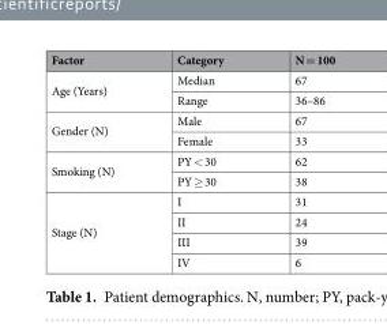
<table><thead><tr><td>Factor</td><td>Category</td><td>N = 100</td></tr></thead><tbody><tr><td rowspan="2">Age (Years)</td><td>Median</td><td>67</td></tr><tr><td>Range</td><td>36–86</td></tr><tr><td rowspan="2">Gender (N)</td><td>Male</td><td>67</td></tr><tr><td>Female</td><td>33</td></tr><tr><td rowspan="2">Smoking (N)</td><td>PY &lt; 30</td><td>62</td></tr><tr><td>PY ≥ 30</td><td>38</td></tr><tr><td rowspan="4">Stage (N)</td><td>I</td><td>31</td></tr><tr><td>II</td><td>24</td></tr><tr><td>III</td><td>39</td></tr><tr><td>IV</td><td>6</td></tr></tbody></table>